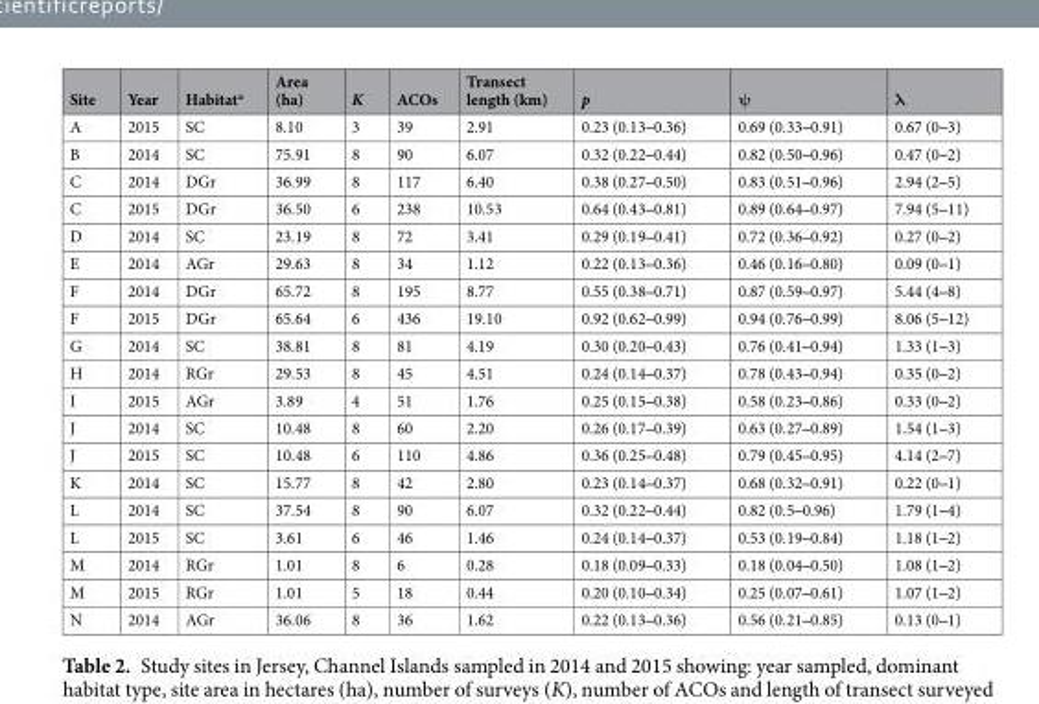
<table><thead><tr><td>Site</td><td>Year</td><td>Habitat<sup>a</sup></td><td>Area (ha)</td><td>K</td><td>ACOs</td><td>Transect length (km)</td><td>p</td><td>ψ</td><td>λ</td></tr></thead><tbody><tr><td>A</td><td>2015</td><td>SC</td><td>8.10</td><td>3</td><td>39</td><td>2.91</td><td>0.23 (0.13‒0.36)</td><td>0.69 (0.33‒0.91)</td><td>0.67 (0‒3)</td></tr><tr><td>B</td><td>2014</td><td>SC</td><td>75.91</td><td>8</td><td>90</td><td>6.07</td><td>0.32 (0.22‒0.44)</td><td>0.82 (0.50‒0.96)</td><td>0.47 (0‒2)</td></tr><tr><td>C</td><td>2014</td><td>DGr</td><td>36.99</td><td>8</td><td>117</td><td>6.40</td><td>0.38 (0.27‒0.50)</td><td>0.83 (0.51‒0.96)</td><td>2.94 (2‒5)</td></tr><tr><td>C</td><td>2015</td><td>DGr</td><td>36.50</td><td>6</td><td>238</td><td>10.53</td><td>0.64 (0.43‒0.81)</td><td>0.89 (0.64‒0.97)</td><td>7.94 (5‒11)</td></tr><tr><td>D</td><td>2014</td><td>SC</td><td>23.19</td><td>8</td><td>72</td><td>3.41</td><td>0.29 (0.19‒0.41)</td><td>0.72 (0.36‒0.92)</td><td>0.27 (0‒2)</td></tr><tr><td>E</td><td>2014</td><td>AGr</td><td>29.63</td><td>8</td><td>34</td><td>1.12</td><td>0.22 (0.13‒0.36)</td><td>0.46 (0.16‒0.80)</td><td>0.09 (0‒1)</td></tr><tr><td>F</td><td>2014</td><td>DGr</td><td>65.72</td><td>8</td><td>195</td><td>8.77</td><td>0.55 (0.38‒0.71)</td><td>0.87 (0.59‒0.97)</td><td>5.44 (4‒8)</td></tr><tr><td>F</td><td>2015</td><td>DGr</td><td>65.64</td><td>6</td><td>436</td><td>19.10</td><td>0.92 (0.62‒0.99)</td><td>0.94 (0.76‒0.99)</td><td>8.06 (5‒12)</td></tr><tr><td>G</td><td>2014</td><td>SC</td><td>38.81</td><td>8</td><td>81</td><td>4.19</td><td>0.30 (0.20‒0.43)</td><td>0.76 (0.41‒0.94)</td><td>1.33 (1‒3)</td></tr><tr><td>H</td><td>2014</td><td>RGr</td><td>29.53</td><td>8</td><td>45</td><td>4.51</td><td>0.24 (0.14‒0.37)</td><td>0.78 (0.43‒0.94)</td><td>0.35 (0‒2)</td></tr><tr><td>I</td><td>2015</td><td>AGr</td><td>3.89</td><td>4</td><td>51</td><td>1.76</td><td>0.25 (0.15‒0.38)</td><td>0.58 (0.23‒0.86)</td><td>0.33 (0‒2)</td></tr><tr><td>J</td><td>2014</td><td>SC</td><td>10.48</td><td>8</td><td>60</td><td>2.20</td><td>0.26 (0.17‒0.39)</td><td>0.63 (0.27‒0.89)</td><td>1.54 (1‒3)</td></tr><tr><td>J</td><td>2015</td><td>SC</td><td>10.48</td><td>6</td><td>110</td><td>4.86</td><td>0.36 (0.25‒0.48)</td><td>0.79 (0.45‒0.95)</td><td>4.14 (2‒7)</td></tr><tr><td>K</td><td>2014</td><td>SC</td><td>15.77</td><td>8</td><td>42</td><td>2.80</td><td>0.23 (0.14‒0.37)</td><td>0.68 (0.32‒0.91)</td><td>0.22 (0‒1)</td></tr><tr><td>L</td><td>2014</td><td>SC</td><td>37.54</td><td>8</td><td>90</td><td>6.07</td><td>0.32 (0.22‒0.44)</td><td>0.82 (0.5‒0.96)</td><td>1.79 (1‒4)</td></tr><tr><td>L</td><td>2015</td><td>SC</td><td>3.61</td><td>6</td><td>46</td><td>1.46</td><td>0.24 (0.14‒0.37)</td><td>0.53 (0.19‒0.84)</td><td>1.18 (1‒2)</td></tr><tr><td>M</td><td>2014</td><td>RGr</td><td>1.01</td><td>8</td><td>6</td><td>0.28</td><td>0.18 (0.09‒0.33)</td><td>0.18 (0.04‒0.50)</td><td>1.08 (1‒2)</td></tr><tr><td>M</td><td>2015</td><td>RGr</td><td>1.01</td><td>5</td><td>18</td><td>0.44</td><td>0.20 (0.10‒0.34)</td><td>0.25 (0.07‒0.61)</td><td>1.07 (1‒2)</td></tr><tr><td>N</td><td>2014</td><td>AGr</td><td>36.06</td><td>8</td><td>36</td><td>1.62</td><td>0.22 (0.13‒0.36)</td><td>0.56 (0.21‒0.85)</td><td>0.13 (0‒1)</td></tr></tbody></table>